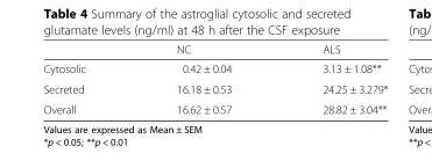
<table><thead><tr><td></td><td>NC</td><td>ALS</td></tr></thead><tbody><tr><td>Cytosolic</td><td>0.42 ± 0.04</td><td>3.13 ± 1.08**</td></tr><tr><td>Secreted</td><td>16.18 ± 0.53</td><td>24.25 ± 3.279*</td></tr><tr><td>Overall</td><td>16.62 ± 0.57</td><td>28.82 ± 3.04**</td></tr></tbody></table>